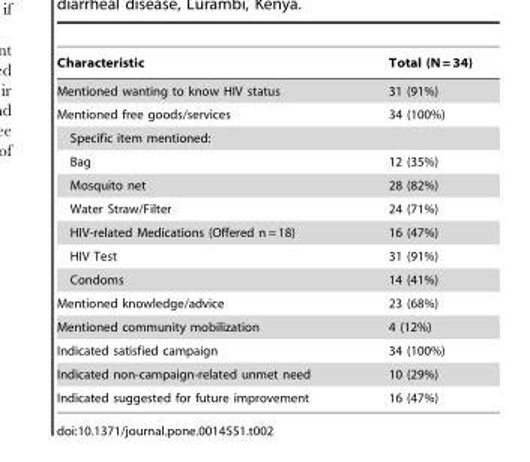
<table><thead><tr><td>Characteristic</td><td>Total (N = 34)</td></tr></thead><tbody><tr><td>Mentioned wanting to know HIV status</td><td>31 (91%)</td></tr><tr><td>Mentioned free goods/services</td><td>34 (100%)</td></tr><tr><td colspan="2">Specific item mentioned:</td></tr><tr><td>Bag</td><td>12 (35%)</td></tr><tr><td>Mosquito net</td><td>28 (82%)</td></tr><tr><td>Water Straw/Filter</td><td>24 (71%)</td></tr><tr><td>HIV-related Medications (Offered n = 18)</td><td>16 (47%)</td></tr><tr><td>HIV Test</td><td>31 (91%)</td></tr><tr><td>Condoms</td><td>14 (41%)</td></tr><tr><td>Mentioned knowledge/advice</td><td>23 (68%)</td></tr><tr><td>Mentioned community mobilization</td><td>4 (12%)</td></tr><tr><td>Indicated satisfied campaign</td><td>34 (100%)</td></tr><tr><td>Indicated non-campaign-related unmet need</td><td>10 (29%)</td></tr><tr><td>Indicated suggested for future improvement</td><td>16 (47%)</td></tr></tbody></table>